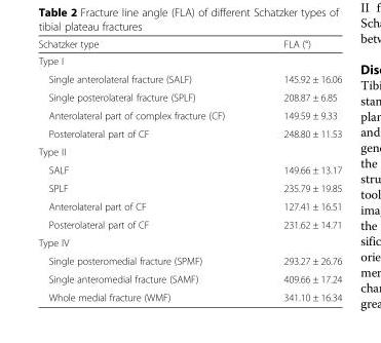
<table><thead><tr><td>Schatzker type</td><td>FLA (°)</td></tr></thead><tbody><tr><td colspan="2">Type I</td></tr><tr><td>Single anterolateral fracture (SALF)</td><td>145.92 ± 16.06</td></tr><tr><td>Single posterolateral fracture (SPLF)</td><td>208.87 ± 6.85</td></tr><tr><td>Anterolateral part of complex fracture (CF)</td><td>149.59 ± 9.33</td></tr><tr><td>Posterolateral part of CF</td><td>248.80 ± 11.53</td></tr><tr><td colspan="2">Type II</td></tr><tr><td>SALF</td><td>149.66 ± 13.17</td></tr><tr><td>SPLF</td><td>235.79 ± 19.85</td></tr><tr><td>Anterolateral part of CF</td><td>127.41 ± 16.51</td></tr><tr><td>Posterolateral part of CF</td><td>231.62 ± 14.71</td></tr><tr><td colspan="2">Type IV</td></tr><tr><td>Single posteromedial fracture (SPMF)</td><td>293.27 ± 26.76</td></tr><tr><td>Single anteromedial fracture (SAMF)</td><td>409.66 ± 17.24</td></tr><tr><td>Whole medial fracture (WMF)</td><td>341.10 ± 16.34</td></tr></tbody></table>